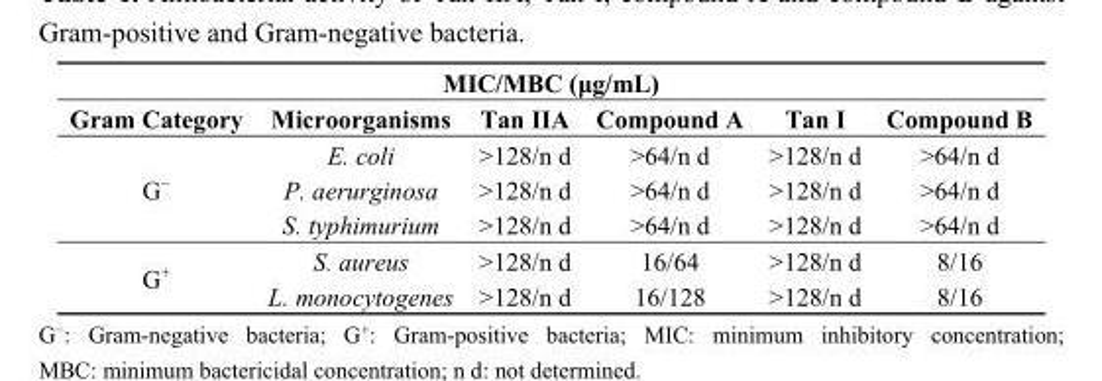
<table><thead><tr><td colspan="6">MIC/MBC (μg/mL)</td></tr><tr><td>Gram Category</td><td>Microorganisms</td><td>Tan IIA</td><td>Compound A</td><td>Tan Ι</td><td>Compound B</td></tr></thead><tbody><tr><td rowspan="3">G<sup>−</sup></td><td>E. coli</td><td>&gt;128/n d</td><td>&gt;64/n d</td><td>&gt;128/n d</td><td>&gt;64/n d</td></tr><tr><td>P. aerurginosa</td><td>&gt;128/n d</td><td>&gt;64/n d</td><td>&gt;128/n d</td><td>&gt;64/n d</td></tr><tr><td>S. typhimurium</td><td>&gt;128/n d</td><td>&gt;64/n d</td><td>&gt;128/n d</td><td>&gt;64/n d</td></tr><tr><td rowspan="2">G<sup>+</sup></td><td>S. aureus</td><td>&gt;128/n d</td><td>16/64</td><td>&gt;128/n d</td><td>8/16</td></tr><tr><td>L. monocytogenes</td><td>&gt;128/n d</td><td>16/128</td><td>&gt;128/n d</td><td>8/16</td></tr></tbody></table>